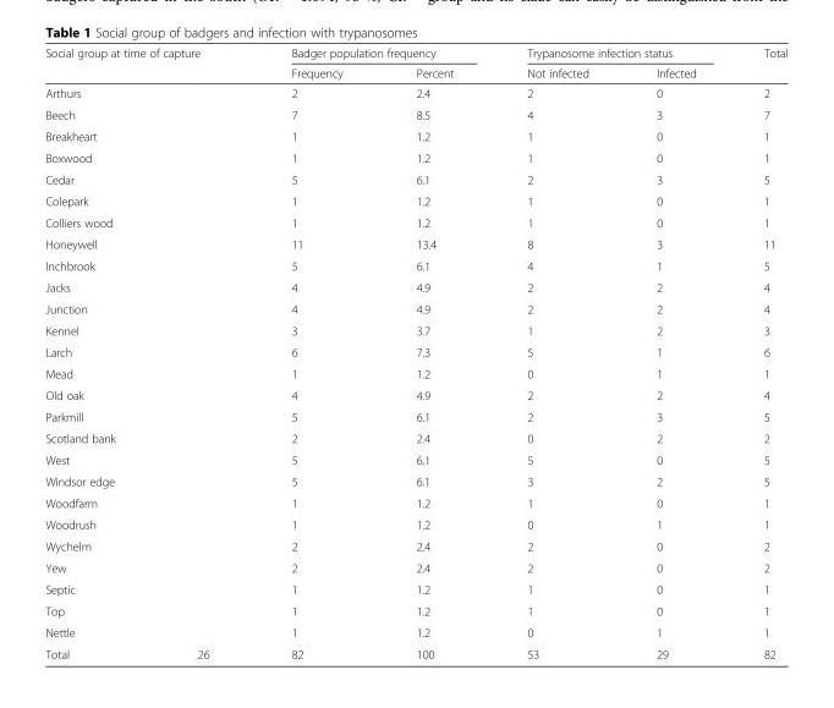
<table><thead><tr><td colspan="2">Social group at time of capture</td><td colspan="2">Badger population frequency</td><td colspan="2">Trypanosome infection status</td><td rowspan="2">Total</td></tr><tr><td></td><td></td><td>Frequency</td><td>Percent</td><td>Not infected</td><td>Infected</td></tr></thead><tbody><tr><td>Arthurs</td><td></td><td>2</td><td>2.4</td><td>2</td><td>0</td><td>2</td></tr><tr><td>Beech</td><td></td><td>7</td><td>8.5</td><td>4</td><td>3</td><td>7</td></tr><tr><td>Breakheart</td><td></td><td>1</td><td>1.2</td><td>1</td><td>0</td><td>1</td></tr><tr><td>Boxwood</td><td></td><td>1</td><td>1.2</td><td>1</td><td>0</td><td>1</td></tr><tr><td>Cedar</td><td></td><td>5</td><td>6.1</td><td>2</td><td>3</td><td>5</td></tr><tr><td>Colepark</td><td></td><td>1</td><td>1.2</td><td>1</td><td>0</td><td>1</td></tr><tr><td>Colliers wood</td><td></td><td>1</td><td>1.2</td><td>1</td><td>0</td><td>1</td></tr><tr><td>Honeywell</td><td></td><td>11</td><td>13.4</td><td>8</td><td>3</td><td>11</td></tr><tr><td>Inchbrook</td><td></td><td>5</td><td>6.1</td><td>4</td><td>1</td><td>5</td></tr><tr><td>Jacks</td><td></td><td>4</td><td>4.9</td><td>2</td><td>2</td><td>4</td></tr><tr><td>Junction</td><td></td><td>4</td><td>4.9</td><td>2</td><td>2</td><td>4</td></tr><tr><td>Kennel</td><td></td><td>3</td><td>3.7</td><td>1</td><td>2</td><td>3</td></tr><tr><td>Larch</td><td></td><td>6</td><td>7.3</td><td>5</td><td>1</td><td>6</td></tr><tr><td>Mead</td><td></td><td>1</td><td>1.2</td><td>0</td><td>1</td><td>1</td></tr><tr><td>Old oak</td><td></td><td>4</td><td>4.9</td><td>2</td><td>2</td><td>4</td></tr><tr><td>Parkmill</td><td></td><td>5</td><td>6.1</td><td>2</td><td>3</td><td>5</td></tr><tr><td>Scotland bank</td><td></td><td>2</td><td>2.4</td><td>0</td><td>2</td><td>2</td></tr><tr><td>West</td><td></td><td>5</td><td>6.1</td><td>5</td><td>0</td><td>5</td></tr><tr><td>Windsor edge</td><td></td><td>5</td><td>6.1</td><td>3</td><td>2</td><td>5</td></tr><tr><td>Woodfarm</td><td></td><td>1</td><td>1.2</td><td>1</td><td>0</td><td>1</td></tr><tr><td>Woodrush</td><td></td><td>1</td><td>1.2</td><td>0</td><td>1</td><td>1</td></tr><tr><td>Wychelm</td><td></td><td>2</td><td>2.4</td><td>2</td><td>0</td><td>2</td></tr><tr><td>Yew</td><td></td><td>2</td><td>2.4</td><td>2</td><td>0</td><td>2</td></tr><tr><td>Septic</td><td></td><td>1</td><td>1.2</td><td>1</td><td>0</td><td>1</td></tr><tr><td>Top</td><td></td><td>1</td><td>1.2</td><td>1</td><td>0</td><td>1</td></tr><tr><td>Nettle</td><td></td><td>1</td><td>1.2</td><td>0</td><td>1</td><td>1</td></tr><tr><td>Total</td><td>26</td><td>82</td><td>100</td><td>53</td><td>29</td><td>82</td></tr></tbody></table>